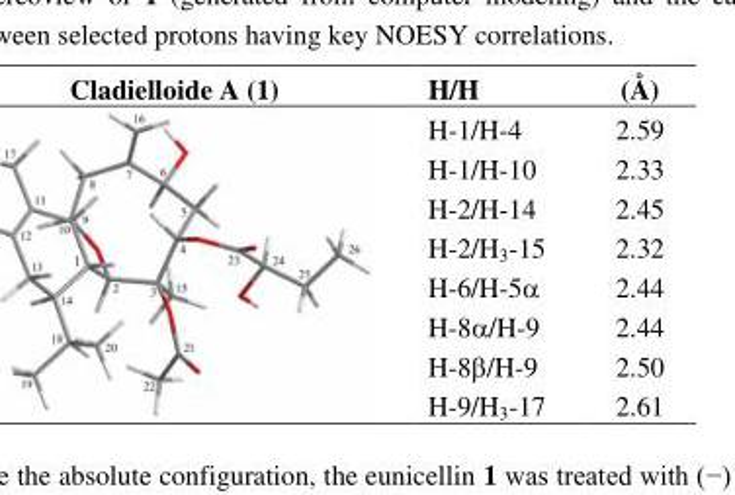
<table><thead><tr><td>Cladielloide A (1)</td><td>H/H</td><td>(Å)</td></tr></thead><tbody><tr><td rowspan="8"></td><td>H-1/H-4</td><td>2.59</td></tr><tr><td>H-1/H-10</td><td>2.33</td></tr><tr><td>H-2/H-14</td><td>2.45</td></tr><tr><td>H-2/H<sub>3</sub>-15</td><td>2.32</td></tr><tr><td>H-6/H-5α</td><td>2.44</td></tr><tr><td>H-8α/H-9</td><td>2.44</td></tr><tr><td>H-8β/H-9</td><td>2.50</td></tr><tr><td>H-9/H<sub>3</sub>-17</td><td>2.61</td></tr></tbody></table>